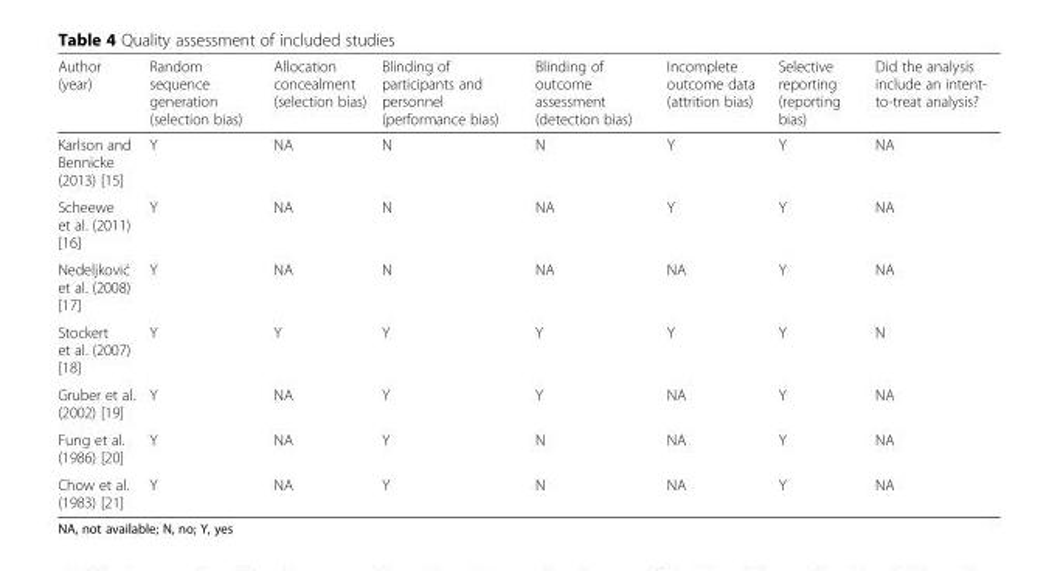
<table><thead><tr><td>Author (year)</td><td>Random sequence generation (selection bias)</td><td>Allocation concealment (selection bias)</td><td>Blinding of participants and personnel (performance bias)</td><td>Blinding of outcome assessment (detection bias)</td><td>Incomplete outcome data (attrition bias)</td><td>Selective reporting (reporting bias)</td><td>Did the analysis include an intent- to-treat analysis?</td></tr></thead><tbody><tr><td>Karlson and Bennicke (2013) [15]</td><td>Y</td><td>NA</td><td>N</td><td>N</td><td>Y</td><td>Y</td><td>NA</td></tr><tr><td>Scheewe et al. (2011) [16]</td><td>Y</td><td>NA</td><td>N</td><td>NA</td><td>Y</td><td>Y</td><td>NA</td></tr><tr><td>Nedeljković et al. (2008) [17]</td><td>Y</td><td>NA</td><td>N</td><td>NA</td><td>NA</td><td>Y</td><td>NA</td></tr><tr><td>Stockert et al. (2007) [18]</td><td>Y</td><td>Y</td><td>Y</td><td>Y</td><td>Y</td><td>Y</td><td>N</td></tr><tr><td>Gruber et al. (2002) [19]</td><td>Y</td><td>NA</td><td>Y</td><td>Y</td><td>NA</td><td>Y</td><td>NA</td></tr><tr><td>Fung et al. (1986) [20]</td><td>Y</td><td>NA</td><td>Y</td><td>N</td><td>NA</td><td>Y</td><td>NA</td></tr><tr><td>Chow et al. (1983) [21]</td><td>Y</td><td>NA</td><td>Y</td><td>N</td><td>NA</td><td>Y</td><td>NA</td></tr></tbody></table>